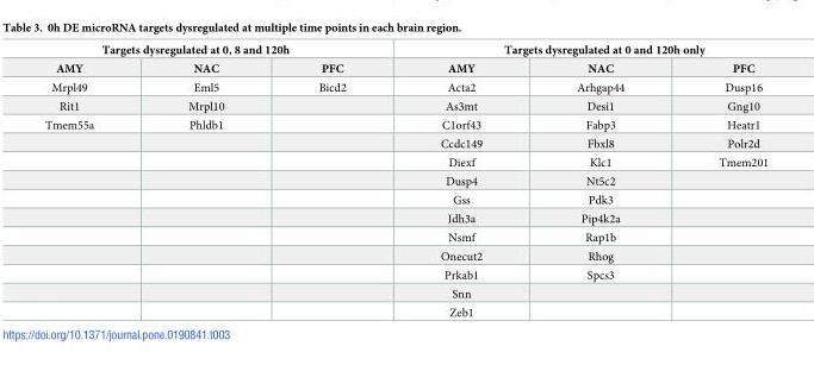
<table><thead><tr><td colspan="3">Targets dysregulated at 0, 8 and 120h</td><td colspan="3">Targets dysregulated at 0 and 120h only</td></tr><tr><td>AMY</td><td>NAC</td><td>PFC</td><td>AMY</td><td>NAC</td><td>PFC</td></tr></thead><tbody><tr><td>Mrpl49</td><td>Eml5</td><td>Bicd2</td><td>Acta2</td><td>Arhgap44</td><td>Dusp16</td></tr><tr><td>Rit1</td><td>Mrpl10</td><td></td><td>As3mt</td><td>Desi1</td><td>Gng10</td></tr><tr><td rowspan="11">Tmem55a</td><td>Phldb1</td><td></td><td>C1orf43</td><td>Fabp3</td><td>Heatr1</td></tr><tr><td></td><td></td><td>Ccdc149</td><td>Fbxl8</td><td>Polr2d</td></tr><tr><td></td><td></td><td>Diexf</td><td>Klc1</td><td>Tmem201</td></tr><tr><td></td><td></td><td>Dusp4</td><td>Nt5c2</td><td></td></tr><tr><td></td><td></td><td>Gss</td><td>Pdk3</td><td></td></tr><tr><td></td><td></td><td>Idh3a</td><td>Pip4k2a</td><td></td></tr><tr><td></td><td></td><td>Nsmf</td><td>Rap1b</td><td></td></tr><tr><td></td><td></td><td>Onecut2</td><td>Rhog</td><td></td></tr><tr><td></td><td></td><td>Prkab1</td><td>Spcs3</td><td></td></tr><tr><td></td><td></td><td>Snn</td><td></td><td></td></tr><tr><td></td><td></td><td>Zeb1</td><td></td><td></td></tr></tbody></table>